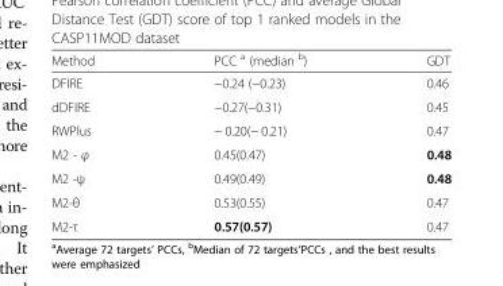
<table><thead><tr><td>Method</td><td>PCC <sup>a</sup> (median <sup>b</sup>)</td><td>GDT</td></tr></thead><tbody><tr><td>DFIRE</td><td>−0.24 (−0.23)</td><td>0.46</td></tr><tr><td>dDFIRE</td><td>−0.27(−0.31)</td><td>0.45</td></tr><tr><td>RWPlus</td><td>− 0.20(− 0.21)</td><td>0.47</td></tr><tr><td>M2 - φ</td><td>0.45(0.47)</td><td>0.48</td></tr><tr><td>M2 -ψ</td><td>0.49(0.49)</td><td>0.48</td></tr><tr><td>M2-θ</td><td>0.53(0.55)</td><td>0.47</td></tr><tr><td>M2-τ</td><td>0.57(0.57)</td><td>0.47</td></tr></tbody></table>